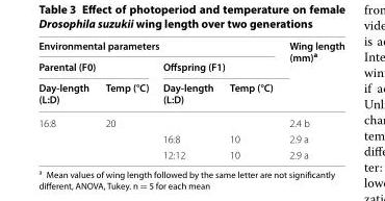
<table><thead><tr><td colspan="4">Environmental parameters</td><td rowspan="3">Wing length (mm)<sup>a</sup></td></tr><tr><td colspan="2">Parental (F0)</td><td colspan="2">Offspring (F1)</td></tr><tr><td>Day-length (L:D)</td><td>Temp (°C)</td><td>Day-length (L:D)</td><td>Temp (°C)</td></tr></thead><tbody><tr><td rowspan="3">16:8</td><td>20</td><td></td><td></td><td>2.4 b</td></tr><tr><td></td><td>16:8</td><td>10</td><td>2.9 a</td></tr><tr><td></td><td>12:12</td><td>10</td><td>2.9 a</td></tr></tbody></table>